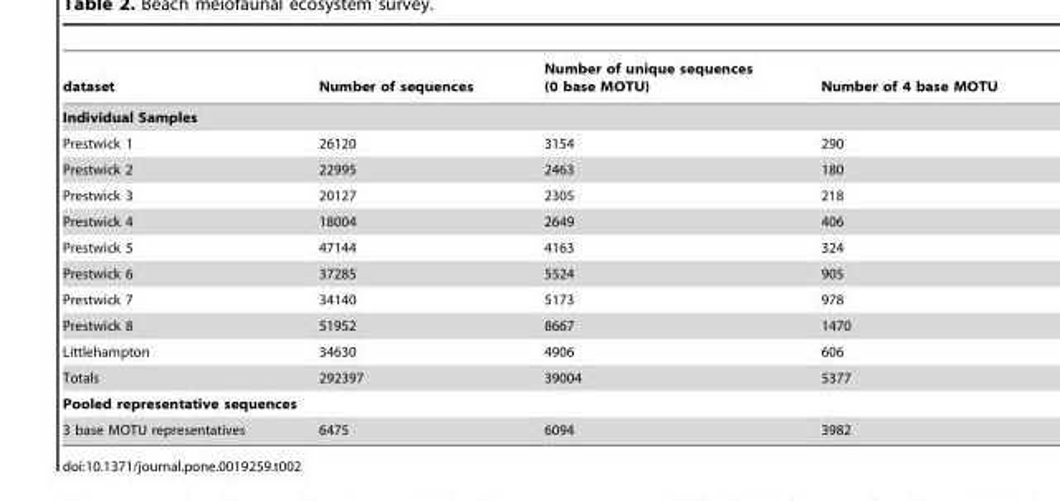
<table><thead><tr><td>dataset</td><td>Number of sequences</td><td>Number of unique sequences (0 base MOTU)</td><td>Number of 4 base MOTU</td></tr></thead><tbody><tr><td colspan="4">Individual Samples</td></tr><tr><td>Prestwick 1</td><td>26120</td><td>3154</td><td>290</td></tr><tr><td>Prestwick 2</td><td>22995</td><td>2463</td><td>180</td></tr><tr><td>Prestwick 3</td><td>20127</td><td>2305</td><td>218</td></tr><tr><td>Prestwick 4</td><td>18004</td><td>2649</td><td>406</td></tr><tr><td>Prestwick 5</td><td>47144</td><td>4163</td><td>324</td></tr><tr><td>Prestwick 6</td><td>37285</td><td>5524</td><td>905</td></tr><tr><td>Prestwick 7</td><td>34140</td><td>5173</td><td>978</td></tr><tr><td>Prestwick 8</td><td>51952</td><td>8667</td><td>1470</td></tr><tr><td>Littlehampton</td><td>34630</td><td>4906</td><td>606</td></tr><tr><td>Totals</td><td>292397</td><td>39004</td><td>5377</td></tr><tr><td colspan="4">Pooled representative sequences</td></tr><tr><td>3 base MOTU representatives</td><td>6475</td><td>6094</td><td>3982</td></tr></tbody></table>